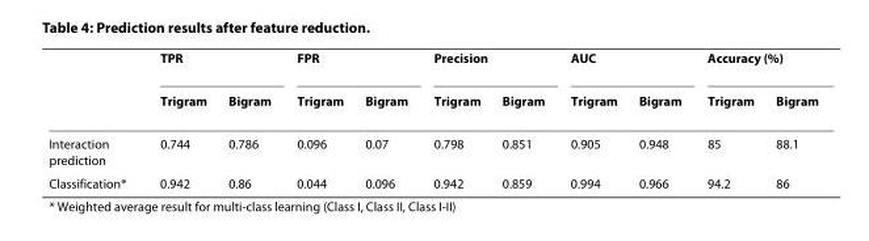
<table><thead><tr><td rowspan="2"></td><td colspan="2">TPR</td><td colspan="2">FPR</td><td colspan="2">Precision</td><td colspan="2">AUC</td><td colspan="2">Accuracy (%)</td></tr><tr><td>Trigram</td><td>Bigram</td><td>Trigram</td><td>Bigram</td><td>Trigram</td><td>Bigram</td><td>Trigram</td><td>Bigram</td><td>Trigram</td><td>Bigram</td></tr></thead><tbody><tr><td>Interaction prediction</td><td>0.744</td><td>0.786</td><td>0.096</td><td>0.07</td><td>0.798</td><td>0.851</td><td>0.905</td><td>0.948</td><td>85</td><td>88.1</td></tr><tr><td>Classification*</td><td>0.942</td><td>0.86</td><td>0.044</td><td>0.096</td><td>0.942</td><td>0.859</td><td>0.994</td><td>0.966</td><td>94.2</td><td>86</td></tr></tbody></table>